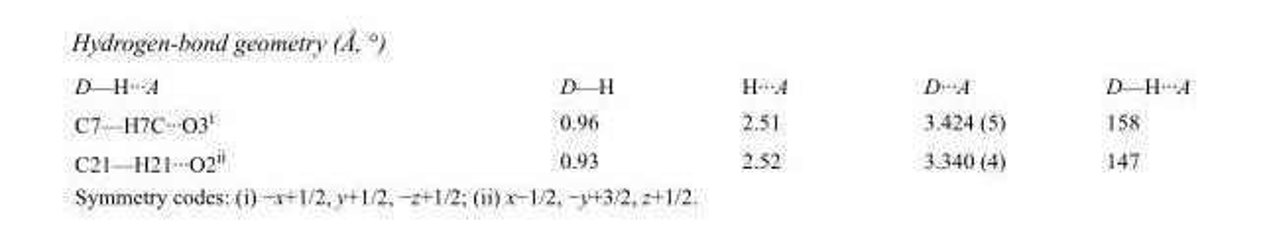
<table><tbody><tr><td>D—H···A</td><td>D—H</td><td>H···A</td><td>D···A</td><td>D—H···A</td></tr><tr><td>C7—H7C···O3<sup>i</sup></td><td>0.96</td><td>2.51</td><td>3.424 (5)</td><td>158</td></tr><tr><td>C21—H21···O2<sup>ii</sup></td><td>0.93</td><td>2.52</td><td>3.340 (4)</td><td>147</td></tr></tbody></table>